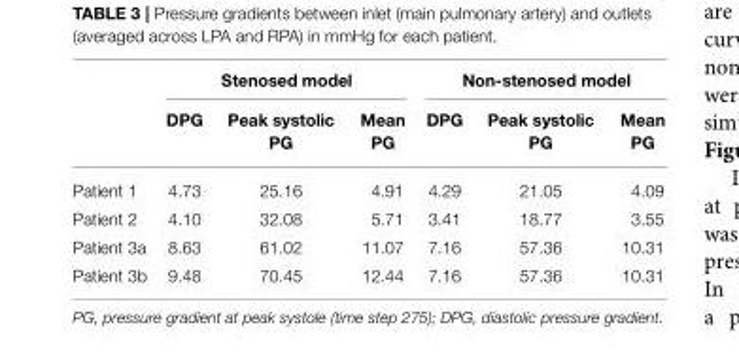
<table><thead><tr><td rowspan="2"></td><td colspan="3">Stenosed model</td><td colspan="3">Non-stenosed model</td></tr><tr><td>DPG</td><td>Peak systolic PG</td><td>Mean PG</td><td>DPG</td><td>Peak systolic PG</td><td>Mean PG</td></tr></thead><tbody><tr><td>Patient 1</td><td>4.73</td><td>25.16</td><td>4.91</td><td>4.29</td><td>21.05</td><td>4.09</td></tr><tr><td>Patient 2</td><td>4.10</td><td>32.08</td><td>5.71</td><td>3.41</td><td>18.77</td><td>3.55</td></tr><tr><td>Patient 3a</td><td>8.63</td><td>61.02</td><td>11.07</td><td>7.16</td><td>57.36</td><td>10.31</td></tr><tr><td>Patient 3b</td><td>9.48</td><td>70.45</td><td>12.44</td><td>7.16</td><td>57.36</td><td>10.31</td></tr></tbody></table>